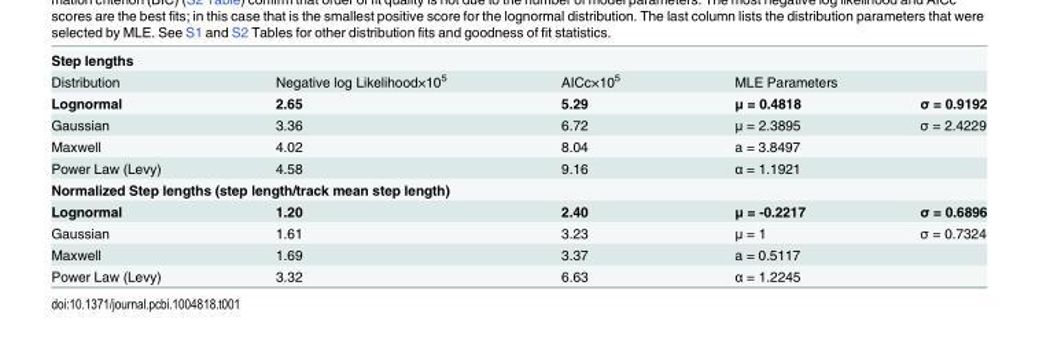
<table><tbody><tr><td colspan="5">Step lengths</td></tr><tr><td>Distribution</td><td>Negative log Likelihood×10<sup>5</sup></td><td>AICc×10<sup>5</sup></td><td colspan="2">MLE Parameters</td></tr><tr><td>Lognormal</td><td>2.65</td><td>5.29</td><td>μ = 0.4818</td><td>σ = 0.9192</td></tr><tr><td>Gaussian</td><td>3.36</td><td>6.72</td><td>μ = 2.3895</td><td>σ = 2.4229</td></tr><tr><td>Maxwell</td><td>4.02</td><td>8.04</td><td>a = 3.8497</td><td></td></tr><tr><td>Power Law (Levy)</td><td>4.58</td><td>9.16</td><td>α = 1.1921</td><td></td></tr><tr><td colspan="5">Normalized Step lengths (step length/track mean step length)</td></tr><tr><td>Lognormal</td><td>1.20</td><td>2.40</td><td>μ = -0.2217</td><td>σ = 0.6896</td></tr><tr><td>Gaussian</td><td>1.61</td><td>3.23</td><td>μ = 1</td><td>σ = 0.7324</td></tr><tr><td>Maxwell</td><td>1.69</td><td>3.37</td><td>a = 0.5117</td><td></td></tr><tr><td>Power Law (Levy)</td><td>3.32</td><td>6.63</td><td>α = 1.2245</td><td></td></tr></tbody></table>